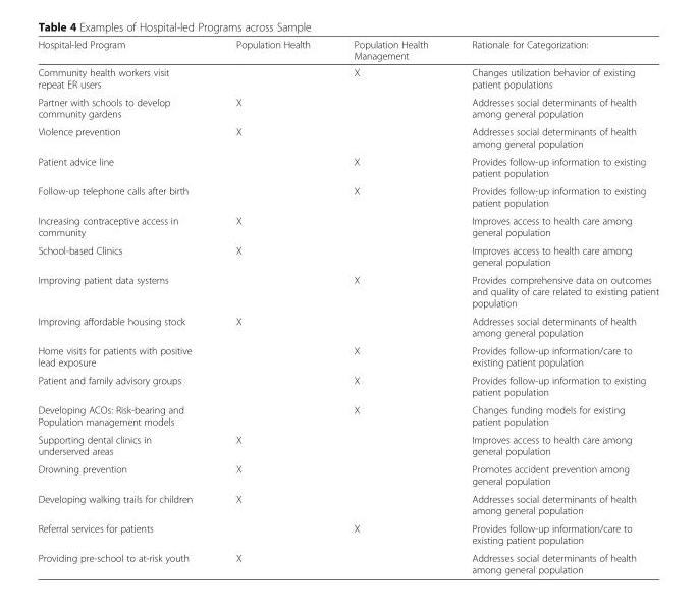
<table><thead><tr><td>Hospital-led Program</td><td>Population Health</td><td>Population Health Management</td><td>Rationale for Categorization:</td></tr></thead><tbody><tr><td>Community health workers visit repeat ER users</td><td></td><td>X</td><td>Changes utilization behavior of existing patient populations</td></tr><tr><td>Partner with schools to develop community gardens</td><td>X</td><td></td><td>Addresses social determinants of health among general population</td></tr><tr><td>Violence prevention</td><td>X</td><td></td><td>Addresses social determinants of health among general population</td></tr><tr><td>Patient advice line</td><td></td><td>X</td><td>Provides follow-up information to existing patient population</td></tr><tr><td>Follow-up telephone calls after birth</td><td></td><td>X</td><td>Provides follow-up information to existing patient population</td></tr><tr><td>Increasing contraceptive access in community</td><td>X</td><td></td><td>Improves access to health care among general population</td></tr><tr><td>School-based Clinics</td><td>X</td><td></td><td>Improves access to health care among general population</td></tr><tr><td>Improving patient data systems</td><td></td><td>X</td><td>Provides comprehensive data on outcomes and quality of care related to existing patient population</td></tr><tr><td>Improving affordable housing stock</td><td>X</td><td></td><td>Addresses social determinants of health among general population</td></tr><tr><td>Home visits for patients with positive lead exposure</td><td></td><td>X</td><td>Provides follow-up information/care to existing patient population</td></tr><tr><td>Patient and family advisory groups</td><td></td><td>X</td><td>Provides follow-up information to existing patient population</td></tr><tr><td>Developing ACOs: Risk-bearing and Population management models</td><td></td><td>X</td><td>Changes funding models for existing patient population</td></tr><tr><td>Supporting dental clinics in underserved areas</td><td>X</td><td></td><td>Improves access to health care among general population</td></tr><tr><td>Drowning prevention</td><td>X</td><td></td><td>Promotes accident prevention among general population</td></tr><tr><td>Developing walking trails for children</td><td>X</td><td></td><td>Addresses social determinants of health among general population</td></tr><tr><td>Referral services for patients</td><td></td><td>X</td><td>Provides follow-up information/care to existing patient population</td></tr><tr><td>Providing pre-school to at-risk youth</td><td>X</td><td></td><td>Addresses social determinants of health among general population</td></tr></tbody></table>